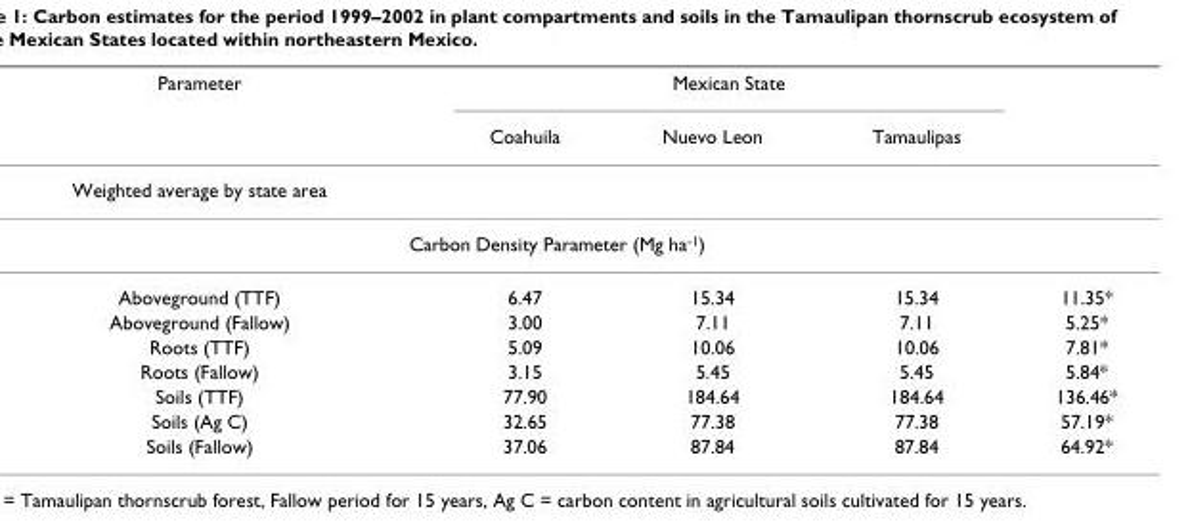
<table><thead><tr><td rowspan="2">Parameter</td><td colspan="3">Mexican State</td><td rowspan="2"></td></tr><tr><td>Coahuila</td><td>Nuevo Leon</td><td>Tamaulipas</td></tr></thead><tbody><tr><td colspan="5">Weighted average by state area</td></tr><tr><td colspan="5">Carbon Density Parameter (Mg ha<sup>-1</sup>)</td></tr><tr><td>Aboveground (TTF)</td><td>6.47</td><td>15.34</td><td>15.34</td><td>11.35*</td></tr><tr><td>Aboveground (Fallow)</td><td>3.00</td><td>7.11</td><td>7.11</td><td>5.25*</td></tr><tr><td>Roots (TTF)</td><td>5.09</td><td>10.06</td><td>10.06</td><td>7.81*</td></tr><tr><td>Roots (Fallow)</td><td>3.15</td><td>5.45</td><td>5.45</td><td>5.84*</td></tr><tr><td>Soils (TTF)</td><td>77.90</td><td>184.64</td><td>184.64</td><td>136.46*</td></tr><tr><td>Soils (Ag C)</td><td>32.65</td><td>77.38</td><td>77.38</td><td>57.19*</td></tr><tr><td>Soils (Fallow)</td><td>37.06</td><td>87.84</td><td>87.84</td><td>64.92*</td></tr></tbody></table>